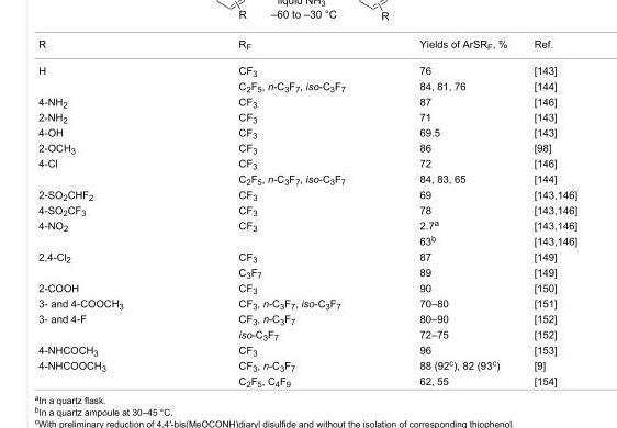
<table><tbody><tr><td>R</td><td>R<sub>F</sub></td><td>Yields of ArSR<sub>F</sub>, %</td><td>Ref.</td></tr><tr><td rowspan="2">H</td><td>CF<sub>3</sub></td><td>76</td><td>[143]</td></tr><tr><td>C<sub>2</sub>F<sub>5</sub>, n-C<sub>3</sub>F<sub>7</sub>, iso-C<sub>3</sub>F<sub>7</sub></td><td>84, 81, 76</td><td>[144]</td></tr><tr><td>4-NH<sub>2</sub></td><td>CF<sub>3</sub></td><td>87</td><td>[146]</td></tr><tr><td>2-NH<sub>2</sub></td><td>CF<sub>3</sub></td><td>71</td><td>[143]</td></tr><tr><td>4-OH</td><td>CF<sub>3</sub></td><td>69.5</td><td>[143]</td></tr><tr><td>2-OCH<sub>3</sub></td><td>CF<sub>3</sub></td><td>86</td><td>[98]</td></tr><tr><td rowspan="2">4-Cl</td><td>CF<sub>3</sub></td><td>72</td><td>[146]</td></tr><tr><td>C<sub>2</sub>F<sub>5</sub>, n-C<sub>3</sub>F<sub>7</sub>, iso-C<sub>3</sub>F<sub>7</sub></td><td>84, 83, 65</td><td>[144]</td></tr><tr><td>2-SO<sub>2</sub>CHF<sub>2</sub></td><td>CF<sub>3</sub></td><td>69</td><td>[143,146]</td></tr><tr><td>4-SO<sub>2</sub>CF<sub>3</sub></td><td>CF<sub>3</sub></td><td>78</td><td>[143,146]</td></tr><tr><td rowspan="2">4-NO<sub>2</sub></td><td>CF<sub>3</sub></td><td>2.7<sup>a</sup></td><td>[143,146]</td></tr><tr><td></td><td>63<sup>b</sup></td><td>[143,146]</td></tr><tr><td rowspan="2">2,4-Cl<sub>2</sub></td><td>CF<sub>3</sub></td><td>87</td><td>[149]</td></tr><tr><td>C<sub>3</sub>F<sub>7</sub></td><td>89</td><td>[149]</td></tr><tr><td>2-COOH</td><td>CF<sub>3</sub></td><td>90</td><td>[150]</td></tr><tr><td>3- and 4-COOCH<sub>3</sub></td><td>CF<sub>3</sub>, n-C<sub>3</sub>F<sub>7</sub>, iso-C<sub>3</sub>F<sub>7</sub></td><td>70–80</td><td>[151]</td></tr><tr><td rowspan="2">3- and 4-F</td><td>CF<sub>3</sub>, n-C<sub>3</sub>F<sub>7</sub></td><td>80–90</td><td>[152]</td></tr><tr><td>iso-C<sub>3</sub>F<sub>7</sub></td><td>72–75</td><td>[152]</td></tr><tr><td>4-NHCOCH<sub>3</sub></td><td>CF<sub>3</sub></td><td>96</td><td>[153]</td></tr><tr><td rowspan="2">4-NHCOOCH<sub>3</sub></td><td>CF<sub>3</sub>, n-C<sub>3</sub>F<sub>7</sub></td><td>88 (92<sup>c</sup>), 82 (93<sup>c</sup>)</td><td>[9]</td></tr><tr><td>C<sub>2</sub>F<sub>5</sub>, C<sub>4</sub>F<sub>9</sub></td><td>62, 55</td><td>[154]</td></tr></tbody></table>